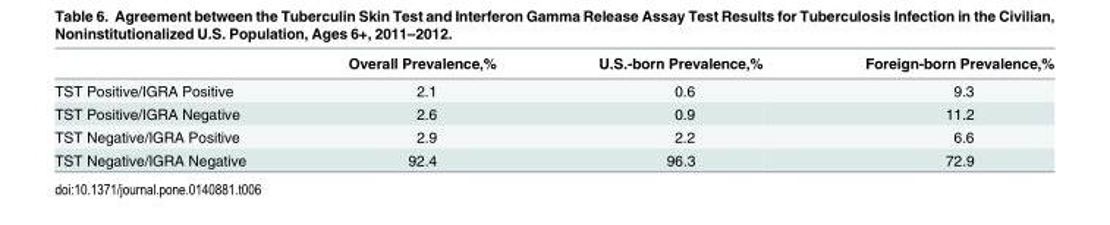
<table><thead><tr><td></td><td>Overall Prevalence,%</td><td>U.S.-born Prevalence,%</td><td>Foreign-born Prevalence,%</td></tr></thead><tbody><tr><td>TST Positive/IGRA Positive</td><td>2.1</td><td>0.6</td><td>9.3</td></tr><tr><td>TST Positive/IGRA Negative</td><td>2.6</td><td>0.9</td><td>11.2</td></tr><tr><td>TST Negative/IGRA Positive</td><td>2.9</td><td>2.2</td><td>6.6</td></tr><tr><td>TST Negative/IGRA Negative</td><td>92.4</td><td>96.3</td><td>72.9</td></tr></tbody></table>